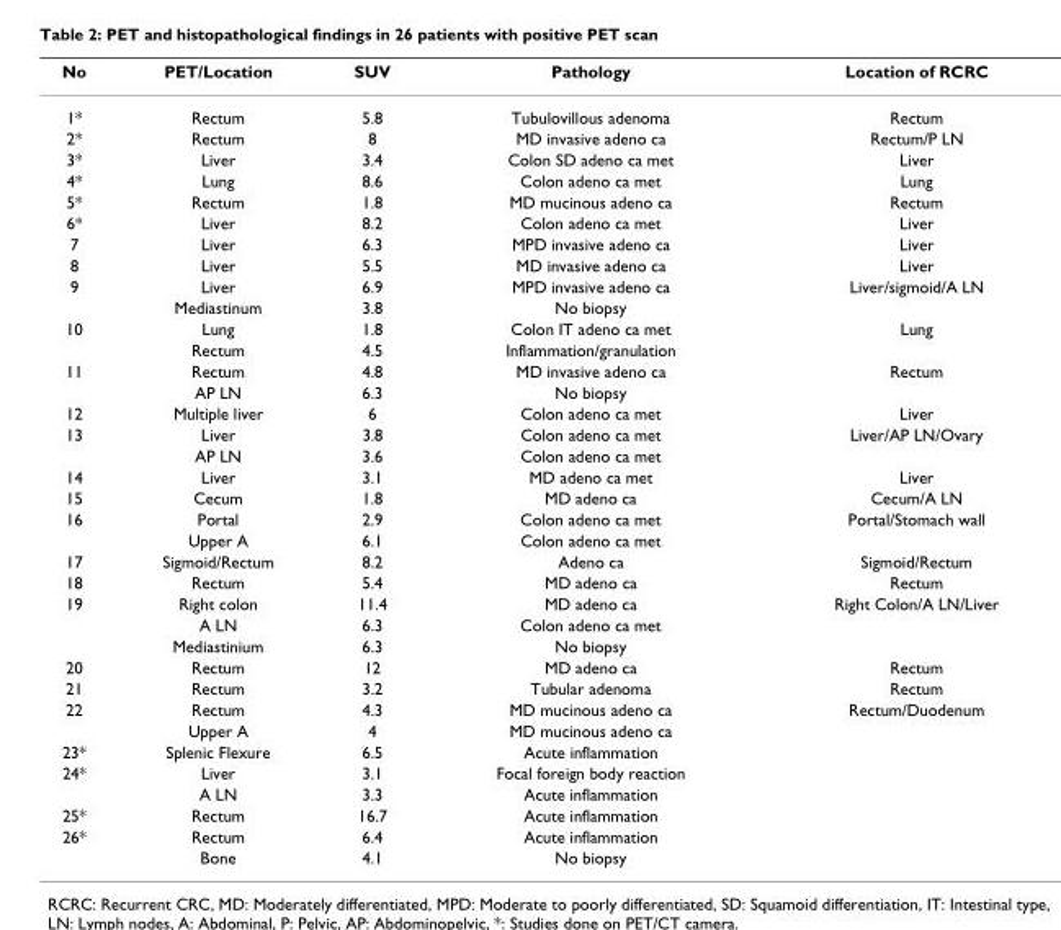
<table><thead><tr><td>No</td><td>PET/Location</td><td>SUV</td><td>Pathology</td><td>Location of RCRC</td></tr></thead><tbody><tr><td>1*</td><td>Rectum</td><td>5.8</td><td>Tubulovillous adenoma</td><td>Rectum</td></tr><tr><td>2*</td><td>Rectum</td><td>8</td><td>MD invasive adeno ca</td><td>Rectum/P LN</td></tr><tr><td>3*</td><td>Liver</td><td>3.4</td><td>Colon SD adeno ca met</td><td>Liver</td></tr><tr><td>4*</td><td>Lung</td><td>8.6</td><td>Colon adeno ca met</td><td>Lung</td></tr><tr><td>5*</td><td>Rectum</td><td>1.8</td><td>MD mucinous adeno ca</td><td>Rectum</td></tr><tr><td>6*</td><td>Liver</td><td>8.2</td><td>Colon adeno ca met</td><td>Liver</td></tr><tr><td>7</td><td>Liver</td><td>6.3</td><td>MPD invasive adeno ca</td><td>Liver</td></tr><tr><td>8</td><td>Liver</td><td>5.5</td><td>MD invasive adeno ca</td><td>Liver</td></tr><tr><td rowspan="2">9</td><td>Liver</td><td>6.9</td><td>MPD invasive adeno ca</td><td>Liver/sigmoid/A LN</td></tr><tr><td>Mediastinum</td><td>3.8</td><td>No biopsy</td><td></td></tr><tr><td rowspan="2">10</td><td>Lung</td><td>1.8</td><td>Colon IT adeno ca met</td><td>Lung</td></tr><tr><td>Rectum</td><td>4.5</td><td>Inflammation/granulation</td><td></td></tr><tr><td rowspan="2">11</td><td>Rectum</td><td>4.8</td><td>MD invasive adeno ca</td><td>Rectum</td></tr><tr><td>AP LN</td><td>6.3</td><td>No biopsy</td><td></td></tr><tr><td>12</td><td>Multiple liver</td><td>6</td><td>Colon adeno ca met</td><td>Liver</td></tr><tr><td rowspan="2">13</td><td>Liver</td><td>3.8</td><td>Colon adeno ca met</td><td>Liver/AP LN/Ovary</td></tr><tr><td>AP LN</td><td>3.6</td><td>Colon adeno ca met</td><td></td></tr><tr><td>14</td><td>Liver</td><td>3.1</td><td>MD adeno ca met</td><td>Liver</td></tr><tr><td>15</td><td>Cecum</td><td>1.8</td><td>MD adeno ca</td><td>Cecum/A LN</td></tr><tr><td rowspan="2">16</td><td>Portal</td><td>2.9</td><td>Colon adeno ca met</td><td>Portal/Stomach wall</td></tr><tr><td>Upper A</td><td>6.1</td><td>Colon adeno ca met</td><td></td></tr><tr><td>17</td><td>Sigmoid/Rectum</td><td>8.2</td><td>Adeno ca</td><td>Sigmoid/Rectum</td></tr><tr><td>18</td><td>Rectum</td><td>5.4</td><td>MD adeno ca</td><td>Rectum</td></tr><tr><td rowspan="3">19</td><td>Right colon</td><td>11.4</td><td>MD adeno ca</td><td>Right Colon/A LN/Liver</td></tr><tr><td>A LN</td><td>6.3</td><td>Colon adeno ca met</td><td></td></tr><tr><td>Mediastinium</td><td>6.3</td><td>No biopsy</td><td></td></tr><tr><td>20</td><td>Rectum</td><td>12</td><td>MD adeno ca</td><td>Rectum</td></tr><tr><td>21</td><td>Rectum</td><td>3.2</td><td>Tubular adenoma</td><td>Rectum</td></tr><tr><td rowspan="2">22</td><td>Rectum</td><td>4.3</td><td>MD mucinous adeno ca</td><td>Rectum/Duodenum</td></tr><tr><td>Upper A</td><td>4</td><td>MD mucinous adeno ca</td><td></td></tr><tr><td>23*</td><td>Splenic Flexure</td><td>6.5</td><td>Acute inflammation</td><td></td></tr><tr><td rowspan="2">24*</td><td>Liver</td><td>3.1</td><td>Focal foreign body reaction</td><td></td></tr><tr><td>A LN</td><td>3.3</td><td>Acute inflammation</td><td></td></tr><tr><td>25*</td><td>Rectum</td><td>16.7</td><td>Acute inflammation</td><td></td></tr><tr><td rowspan="2">26*</td><td>Rectum</td><td>6.4</td><td>Acute inflammation</td><td></td></tr><tr><td>Bone</td><td>4.1</td><td>No biopsy</td><td></td></tr></tbody></table>